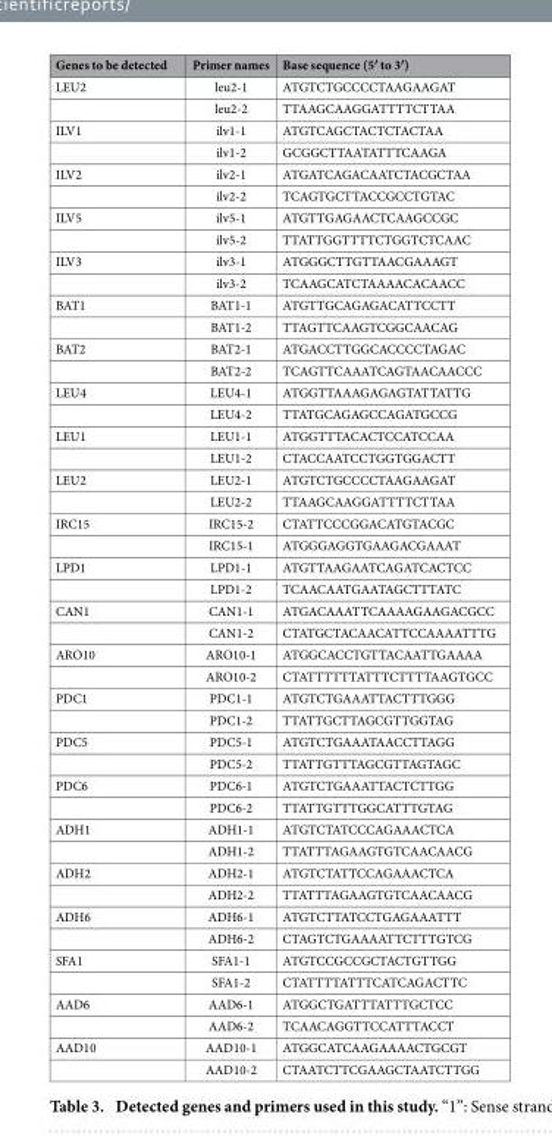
<table><thead><tr><td>Genes to be detected</td><td>Primer names</td><td>Base sequence (5′ to 3′)</td></tr></thead><tbody><tr><td rowspan="2">LEU2</td><td>leu2-1</td><td>ATGTCTGCCCCTAAGAAGAT</td></tr><tr><td>leu2-2</td><td>TTAAGCAAGGATTTTCTTAA</td></tr><tr><td rowspan="2">ILV1</td><td>ilv1-1</td><td>ATGTCAGCTACTCTACTAA</td></tr><tr><td>ilv1-2</td><td>GCGGCTTAATATTTCAAGA</td></tr><tr><td rowspan="2">ILV2</td><td>ilv2-1</td><td>ATGATCAGACAATCTACGCTAA</td></tr><tr><td>ilv2-2</td><td>TCAGTGCTTACCGCCTGTAC</td></tr><tr><td rowspan="2">ILV5</td><td>ilv5-1</td><td>ATGTTGAGAACTCAAGCCGC</td></tr><tr><td>ilv5-2</td><td>TTATTGGTTTTCTGGTCTCAAC</td></tr><tr><td rowspan="2">ILV3</td><td>ilv3-1</td><td>ATGGGCTTGTTAACGAAAGT</td></tr><tr><td>ilv3-2</td><td>TCAAGCATCTAAAACACAACC</td></tr><tr><td rowspan="2">BAT1</td><td>BAT1-1</td><td>ATGTTGCAGAGACATTCCTT</td></tr><tr><td>BAT1-2</td><td>TTAGTTCAAGTCGGCAACAG</td></tr><tr><td rowspan="2">BAT2</td><td>BAT2-1</td><td>ATGACCTTGGCACCCCTAGAC</td></tr><tr><td>BAT2-2</td><td>TCAGTTCAAATCAGTAACAACCC</td></tr><tr><td rowspan="2">LEU4</td><td>LEU4-1</td><td>ATGGTTAAAGAGAGTATTATTG</td></tr><tr><td>LEU4-2</td><td>TTATGCAGAGCCAGATGCCG</td></tr><tr><td rowspan="2">LEU1</td><td>LEU1-1</td><td>ATGGTTTACACTCCATCCAA</td></tr><tr><td>LEU1-2</td><td>CTACCAATCCTGGTGGACTT</td></tr><tr><td rowspan="2">LEU2</td><td>LEU2-1</td><td>ATGTCTGCCCCTAAGAAGAT</td></tr><tr><td>LEU2-2</td><td>TTAAGCAAGGATTTTCTTAA</td></tr><tr><td rowspan="2">IRC15</td><td>IRC15-2</td><td>CTATTCCCGGACATGTACGC</td></tr><tr><td>IRC15-1</td><td>ATGGGAGGTGAAGACGAAAT</td></tr><tr><td rowspan="2">LPD1</td><td>LPD1-1</td><td>ATGTTAAGAATCAGATCACTCC</td></tr><tr><td>LPD1-2</td><td>TCAACAATGAATAGCTTTATC</td></tr><tr><td rowspan="2">CAN1</td><td>CAN1-1</td><td>ATGACAAATTCAAAAGAAGACGCC</td></tr><tr><td>CAN1-2</td><td>CTATGCTACAACATTCCAAAATTTG</td></tr><tr><td rowspan="2">ARO10</td><td>ARO10-1</td><td>ATGGCACCTGTTACAATTGAAAA</td></tr><tr><td>ARO10-2</td><td>CTATTTTTTATTTCTTTTAAGTGCC</td></tr><tr><td rowspan="2">PDC1</td><td>PDC1-1</td><td>ATGTCTGAAATTACTTTGGG</td></tr><tr><td>PDC1-2</td><td>TTATTGCTTAGCGTTGGTAG</td></tr><tr><td rowspan="2">PDC5</td><td>PDC5-1</td><td>ATGTCTGAAATAACCTTAGG</td></tr><tr><td>PDC5-2</td><td>TTATTGTTTAGCGTTAGTAGC</td></tr><tr><td rowspan="2">PDC6</td><td>PDC6-1</td><td>ATGTCTGAAATTACTCTTGG</td></tr><tr><td>PDC6-2</td><td>TTATTGTTTGGCATTTGTAG</td></tr><tr><td rowspan="2">ADH1</td><td>ADH1-1</td><td>ATGTCTATCCCAGAAACTCA</td></tr><tr><td>ADH1-2</td><td>TTATTTAGAAGTGTCAACAACG</td></tr><tr><td rowspan="2">ADH2</td><td>ADH2-1</td><td>ATGTCTATTCCAGAAACTCA</td></tr><tr><td>ADH2-2</td><td>TTATTTAGAAGTGTCAACAACG</td></tr><tr><td rowspan="2">ADH6</td><td>ADH6-1</td><td>ATGTCTTATCCTGAGAAATTT</td></tr><tr><td>ADH6-2</td><td>CTAGTCTGAAAATTCTTTGTCG</td></tr><tr><td rowspan="2">SFA1</td><td>SFA1-1</td><td>ATGTCCGCCGCTACTGTTGG</td></tr><tr><td>SFA1-2</td><td>CTATTTTATTTCATCAGACTTC</td></tr><tr><td rowspan="2">AAD6</td><td>AAD6-1</td><td>ATGGCTGATTTATTTGCTCC</td></tr><tr><td>AAD6-2</td><td>TCAACAGGTTCCATTTACCT</td></tr><tr><td rowspan="2">AAD10</td><td>AAD10-1</td><td>ATGGCATCAAGAAAACTGCGT</td></tr><tr><td>AAD10-2</td><td>CTAATCTTCGAAGCTAATCTTGG</td></tr></tbody></table>